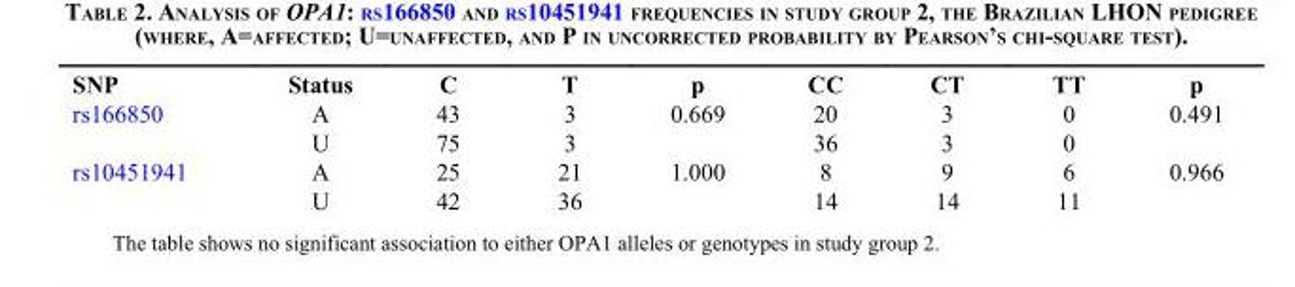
<table><thead><tr><td>SNP</td><td>Status</td><td>C</td><td>T</td><td>p</td><td>CC</td><td>CT</td><td>TT</td><td>p</td></tr></thead><tbody><tr><td rowspan="2">rs166850</td><td>A</td><td>43</td><td>3</td><td rowspan="2">0.669</td><td>20</td><td>3</td><td>0</td><td rowspan="2">0.491</td></tr><tr><td>U</td><td>75</td><td>3</td><td>36</td><td>3</td><td>0</td></tr><tr><td rowspan="2">rs10451941</td><td>A</td><td>25</td><td>21</td><td rowspan="2">1.000</td><td>8</td><td>9</td><td>6</td><td>0.966</td></tr><tr><td>U</td><td>42</td><td>36</td><td>14</td><td>14</td><td>11</td><td></td></tr></tbody></table>